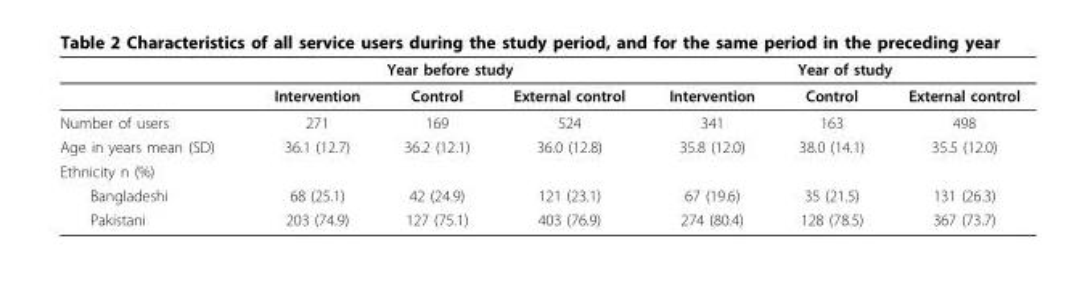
<table><thead><tr><td rowspan="2"></td><td colspan="3">Year before study</td><td colspan="3">Year of study</td></tr><tr><td>Intervention</td><td>Control</td><td>External control</td><td>Intervention</td><td>Control</td><td>External control</td></tr></thead><tbody><tr><td>Number of users</td><td>271</td><td>169</td><td>524</td><td>341</td><td>163</td><td>498</td></tr><tr><td>Age in years mean (SD)</td><td>36.1 (12.7)</td><td>36.2 (12.1)</td><td>36.0 (12.8)</td><td>35.8 (12.0)</td><td>38.0 (14.1)</td><td>35.5 (12.0)</td></tr><tr><td colspan="7">Ethnicity n (%)</td></tr><tr><td>Bangladeshi</td><td>68 (25.1)</td><td>42 (24.9)</td><td>121 (23.1)</td><td>67 (19.6)</td><td>35 (21.5)</td><td>131 (26.3)</td></tr><tr><td>Pakistani</td><td>203 (74.9)</td><td>127 (75.1)</td><td>403 (76.9)</td><td>274 (80.4)</td><td>128 (78.5)</td><td>367 (73.7)</td></tr></tbody></table>